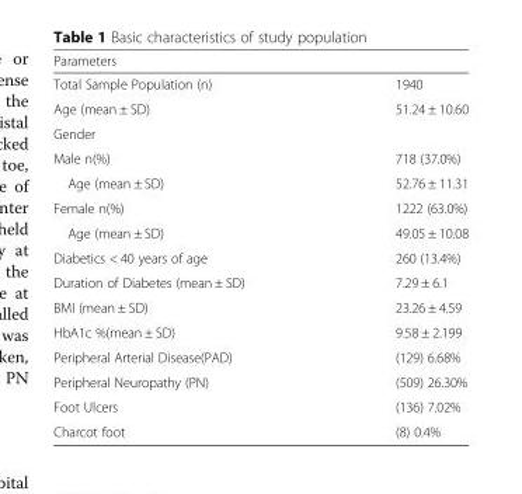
<table><thead><tr><td colspan="2">Parameters</td></tr><tr><td>Total Sample Population (n)</td><td>1940</td></tr></thead><tbody><tr><td>Age (mean ± SD)</td><td>51.24 ± 10.60</td></tr><tr><td colspan="2">Gender</td></tr><tr><td>Male n(%)</td><td>718 (37.0%)</td></tr><tr><td>Age (mean ± SD)</td><td>52.76 ± 11.31</td></tr><tr><td>Female n(%)</td><td>1222 (63.0%)</td></tr><tr><td>Age (mean ± SD)</td><td>49.05 ± 10.08</td></tr><tr><td>Diabetics &lt; 40 years of age</td><td>260 (13.4%)</td></tr><tr><td>Duration of Diabetes (mean ± SD)</td><td>7.29 ± 6.1</td></tr><tr><td>BMI (mean ± SD)</td><td>23.26 ± 4.59</td></tr><tr><td>HbA1c %(mean ± SD)</td><td>9.58 ± 2.199</td></tr><tr><td>Peripheral Arterial Disease(PAD)</td><td>(129) 6.68%</td></tr><tr><td>Peripheral Neuropathy (PN)</td><td>(509) 26.30%</td></tr><tr><td>Foot Ulcers</td><td>(136) 7.02%</td></tr><tr><td>Charcot foot</td><td>(8) 0.4%</td></tr></tbody></table>